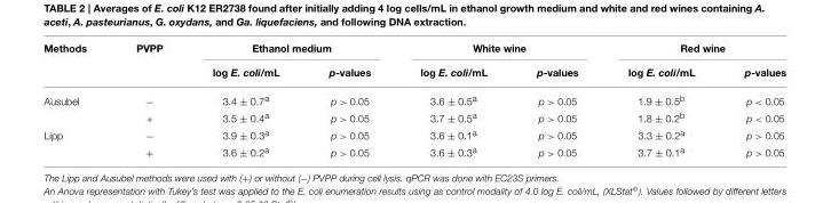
<table><thead><tr><td rowspan="2">Methods</td><td rowspan="2">PVPP</td><td colspan="2">Ethanol medium</td><td colspan="2">White wine</td><td colspan="2">Red wine</td></tr><tr><td>log E. coli/mL</td><td>p-values</td><td>log E. coli/mL</td><td>p-values</td><td>log E. coli/mL</td><td>p-values</td></tr></thead><tbody><tr><td rowspan="2">Ausubel</td><td>−</td><td>3.4 ± 0.7<sup>a</sup></td><td>p &gt; 0.05</td><td>3.6 ± 0.5<sup>a</sup></td><td>p &gt; 0.05</td><td>1.9 ± 0.5<sup>b</sup></td><td>p &lt; 0.05</td></tr><tr><td>+</td><td>3.5 ± 0.4<sup>a</sup></td><td>p &gt; 0.05</td><td>3.7 ± 0.5<sup>a</sup></td><td>p &gt; 0.05</td><td>1.8 ± 0.2<sup>b</sup></td><td>p &lt; 0.05</td></tr><tr><td rowspan="2">Lipp</td><td>−</td><td>3.9 ± 0.3<sup>a</sup></td><td>p &gt; 0.05</td><td>3.6 ± 0.1<sup>a</sup></td><td>p &gt; 0.05</td><td>3.3 ± 0.2<sup>a</sup></td><td>p &gt; 0.05</td></tr><tr><td>+</td><td>3.6 ± 0.2<sup>a</sup></td><td>p &gt; 0.05</td><td>3.6 ± 0.3<sup>a</sup></td><td>p &gt; 0.05</td><td>3.7 ± 0.1<sup>a</sup></td><td>p &gt; 0.05</td></tr></tbody></table>